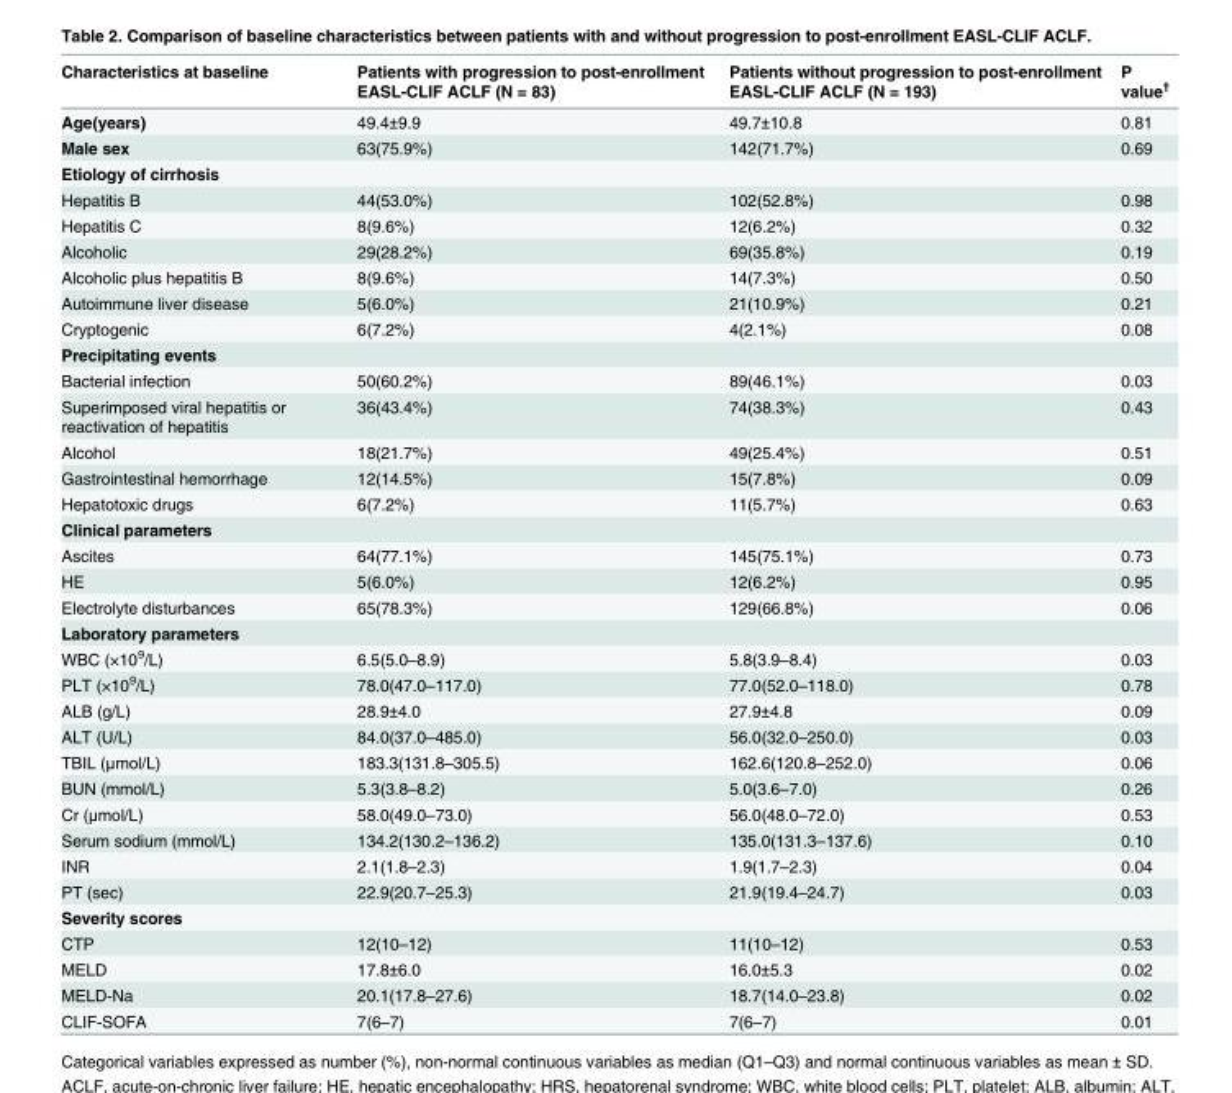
<table><thead><tr><td>Characteristics at baseline</td><td>Patients with progression to post-enrollment EASL-CLIF ACLF (N = 83)</td><td>Patients without progression to post-enrollment EASL-CLIF ACLF (N = 193)</td><td>P value<sup>†</sup></td></tr></thead><tbody><tr><td>Age(years)</td><td>49.4±9.9</td><td>49.7±10.8</td><td>0.81</td></tr><tr><td>Male sex</td><td>63(75.9%)</td><td>142(71.7%)</td><td>0.69</td></tr><tr><td colspan="4">Etiology of cirrhosis</td></tr><tr><td>Hepatitis B</td><td>44(53.0%)</td><td>102(52.8%)</td><td>0.98</td></tr><tr><td>Hepatitis C</td><td>8(9.6%)</td><td>12(6.2%)</td><td>0.32</td></tr><tr><td>Alcoholic</td><td>29(28.2%)</td><td>69(35.8%)</td><td>0.19</td></tr><tr><td>Alcoholic plus hepatitis B</td><td>8(9.6%)</td><td>14(7.3%)</td><td>0.50</td></tr><tr><td>Autoimmune liver disease</td><td>5(6.0%)</td><td>21(10.9%)</td><td>0.21</td></tr><tr><td>Cryptogenic</td><td>6(7.2%)</td><td>4(2.1%)</td><td>0.08</td></tr><tr><td colspan="4">Precipitating events</td></tr><tr><td>Bacterial infection</td><td>50(60.2%)</td><td>89(46.1%)</td><td>0.03</td></tr><tr><td>Superimposed viral hepatitis or reactivation of hepatitis</td><td>36(43.4%)</td><td>74(38.3%)</td><td>0.43</td></tr><tr><td>Alcohol</td><td>18(21.7%)</td><td>49(25.4%)</td><td>0.51</td></tr><tr><td>Gastrointestinal hemorrhage</td><td>12(14.5%)</td><td>15(7.8%)</td><td>0.09</td></tr><tr><td>Hepatotoxic drugs</td><td>6(7.2%)</td><td>11(5.7%)</td><td>0.63</td></tr><tr><td colspan="4">Clinical parameters</td></tr><tr><td>Ascites</td><td>64(77.1%)</td><td>145(75.1%)</td><td>0.73</td></tr><tr><td>HE</td><td>5(6.0%)</td><td>12(6.2%)</td><td>0.95</td></tr><tr><td>Electrolyte disturbances</td><td>65(78.3%)</td><td>129(66.8%)</td><td>0.06</td></tr><tr><td colspan="4">Laboratory parameters</td></tr><tr><td>WBC (×10<sup>9</sup>/L)</td><td>6.5(5.0–8.9)</td><td>5.8(3.9–8.4)</td><td>0.03</td></tr><tr><td>PLT (×10<sup>9</sup>/L)</td><td>78.0(47.0–117.0)</td><td>77.0(52.0–118.0)</td><td>0.78</td></tr><tr><td>ALB (g/L)</td><td>28.9±4.0</td><td>27.9±4.8</td><td>0.09</td></tr><tr><td>ALT (U/L)</td><td>84.0(37.0–485.0)</td><td>56.0(32.0–250.0)</td><td>0.03</td></tr><tr><td>TBIL (μmol/L)</td><td>183.3(131.8–305.5)</td><td>162.6(120.8–252.0)</td><td>0.06</td></tr><tr><td>BUN (mmol/L)</td><td>5.3(3.8–8.2)</td><td>5.0(3.6–7.0)</td><td>0.26</td></tr><tr><td>Cr (μmol/L)</td><td>58.0(49.0–73.0)</td><td>56.0(48.0–72.0)</td><td>0.53</td></tr><tr><td>Serum sodium (mmol/L)</td><td>134.2(130.2–136.2)</td><td>135.0(131.3–137.6)</td><td>0.10</td></tr><tr><td>INR</td><td>2.1(1.8–2.3)</td><td>1.9(1.7–2.3)</td><td>0.04</td></tr><tr><td>PT (sec)</td><td>22.9(20.7–25.3)</td><td>21.9(19.4–24.7)</td><td>0.03</td></tr><tr><td colspan="4">Severity scores</td></tr><tr><td>CTP</td><td>12(10–12)</td><td>11(10–12)</td><td>0.53</td></tr><tr><td>MELD</td><td>17.8±6.0</td><td>16.0±5.3</td><td>0.02</td></tr><tr><td>MELD-Na</td><td>20.1(17.8–27.6)</td><td>18.7(14.0–23.8)</td><td>0.02</td></tr><tr><td>CLIF-SOFA</td><td>7(6–7)</td><td>7(6–7)</td><td>0.01</td></tr></tbody></table>